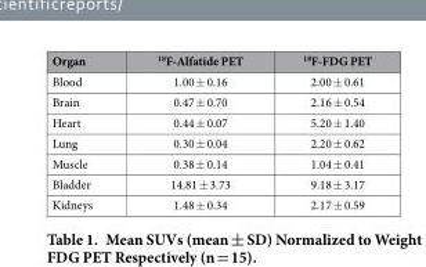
<table><thead><tr><td>Organ</td><td><sup>18</sup>F-Alfatide PET</td><td><sup>18</sup>F-FDG PET</td></tr></thead><tbody><tr><td>Blood</td><td>1.00 ± 0.16</td><td>2.00 ± 0.61</td></tr><tr><td>Brain</td><td>0.47 ± 0.70</td><td>2.16 ± 0.54</td></tr><tr><td>Heart</td><td>0.44 ± 0.07</td><td>5.20 ± 1.40</td></tr><tr><td>Lung</td><td>0.30 ± 0.04</td><td>2.20 ± 0.62</td></tr><tr><td>Muscle</td><td>0.38 ± 0.14</td><td>1.04 ± 0.41</td></tr><tr><td>Bladder</td><td>14.81 ± 3.73</td><td>9.18 ± 3.17</td></tr><tr><td>Kidneys</td><td>1.48 ± 0.34</td><td>2.17 ± 0.59</td></tr></tbody></table>